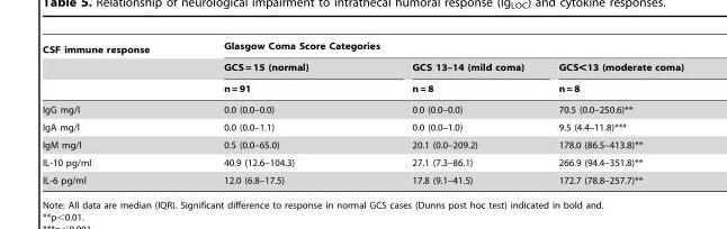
<table><thead><tr><td rowspan="3">CSF immune response</td><td colspan="3">Glasgow Coma Score Categories</td></tr><tr><td rowspan="2">GCS = 15 (normal) n = 91</td><td rowspan="2">GCS 13–14 (mild coma) n = 8</td><td rowspan="2">GCS&lt;13 (moderate coma) n = 8</td></tr><tr></tr></thead><tbody><tr><td>IgG mg/l</td><td>0.0 (0.0–0.0)</td><td>0.0 (0.0–0.0)</td><td>70.5 (0.0–250.6)**</td></tr><tr><td>IgA mg/l</td><td>0.0 (0.0–1.1)</td><td>0.0 (0.0–1.0)</td><td>9.5 (4.4–11.8)***</td></tr><tr><td>IgM mg/l</td><td>0.5 (0.0–65.0)</td><td>20.1 (0.0–209.2)</td><td>178.0 (86.5–413.8)**</td></tr><tr><td>IL-10 pg/ml</td><td>40.9 (12.6–104.3)</td><td>27.1 (7.3–86.1)</td><td>266.9 (94.4–351.8)**</td></tr><tr><td>IL-6 pg/ml</td><td>12.0 (6.8–17.5)</td><td>17.8 (9.1–41.5)</td><td>172.7 (78.8–257.7)**</td></tr></tbody></table>